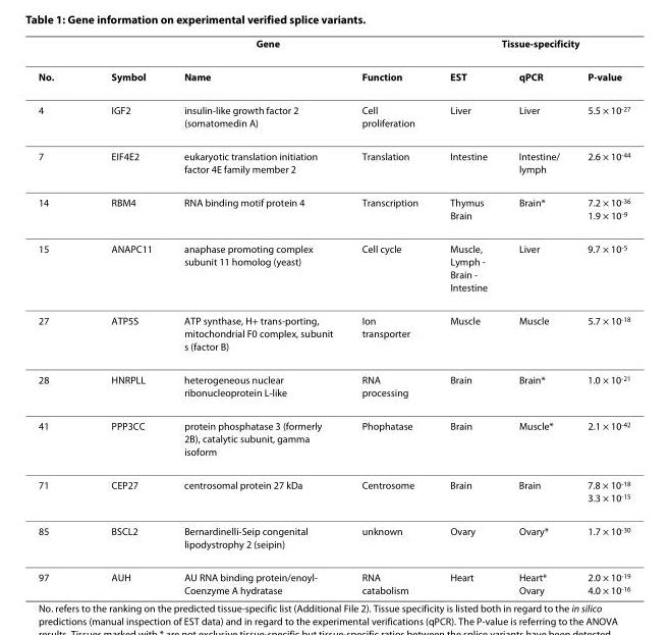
<table><thead><tr><td rowspan="2">No.</td><td colspan="3">Gene</td><td colspan="3">Tissue-specificity</td></tr><tr><td>Symbol</td><td>Name</td><td>Function</td><td>EST</td><td>qPCR</td><td>P-value</td></tr></thead><tbody><tr><td>4</td><td>IGF2</td><td>insulin-like growth factor 2 (somatomedin A)</td><td>Cell proliferation</td><td>Liver</td><td>Liver</td><td>5.5 × 10<sup>-27</sup></td></tr><tr><td>7</td><td>EIF4E2</td><td>eukaryotic translation initiation factor 4E family member 2</td><td>Translation</td><td>Intestine</td><td>Intestine/ lymph</td><td>2.6 × 10<sup>-44</sup></td></tr><tr><td>14</td><td>RBM4</td><td>RNA binding motif protein 4</td><td>Transcription</td><td>Thymus Brain</td><td>Brain*</td><td>7.2 × 10<sup>-36</sup> 1.9 × 10<sup>-9</sup></td></tr><tr><td>15</td><td>ANAPC11</td><td>anaphase promoting complex subunit 11 homolog (yeast)</td><td>Cell cycle</td><td>Muscle, Lymph - Brain - Intestine</td><td>Liver</td><td>9.7 × 10<sup>-5</sup></td></tr><tr><td>27</td><td>ATP5S</td><td>ATP synthase, H+ trans-porting, mitochondrial F0 complex, subunit s (factor B)</td><td>Ion transporter</td><td>Muscle</td><td>Muscle</td><td>5.7 × 10<sup>-18</sup></td></tr><tr><td>28</td><td>HNRPLL</td><td>heterogeneous nuclear ribonucleoprotein L-like</td><td>RNA processing</td><td>Brain</td><td>Brain*</td><td>1.0 × 10<sup>-21</sup></td></tr><tr><td>41</td><td>PPP3CC</td><td>protein phosphatase 3 (formerly 2B), catalytic subunit, gamma isoform</td><td>Phophatase</td><td>Brain</td><td>Muscle*</td><td>2.1 × 10<sup>-42</sup></td></tr><tr><td>71</td><td>CEP27</td><td>centrosomal protein 27 kDa</td><td>Centrosome</td><td>Brain</td><td>Brain</td><td>7.8 × 10<sup>-18</sup> 3.3 × 10<sup>-15</sup></td></tr><tr><td>85</td><td>BSCL2</td><td>Bernardinelli-Seip congenital lipodystrophy 2 (seipin)</td><td>unknown</td><td>Ovary</td><td>Ovary*</td><td>1.7 × 10<sup>-30</sup></td></tr><tr><td>97</td><td>AUH</td><td>AU RNA binding protein/enoyl- Coenzyme A hydratase</td><td>RNA catabolism</td><td>Heart</td><td>Heart* Ovary</td><td>2.0 × 10<sup>-19</sup> 4.0 × 10<sup>-16</sup></td></tr></tbody></table>